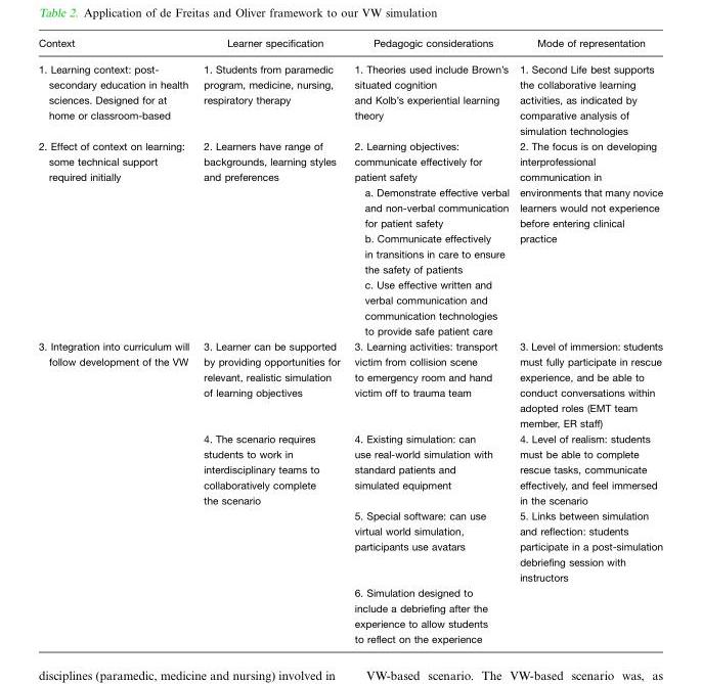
<table><thead><tr><td>Context</td><td>Learner specification</td><td>Pedagogic considerations</td><td>Mode of representation</td></tr></thead><tbody><tr><td>1. Learning context: post- secondary education in health sciences. Designed for at home or classroom-based</td><td>1. Students from paramedic program, medicine, nursing, respiratory therapy</td><td>1. Theories used include Brown’s situated cognition and Kolb’s experiential learning theory</td><td>1. Second Life best supports the collaborative learning activities, as indicated by comparative analysis of simulation technologies</td></tr><tr><td>2. Effect of context on learning: some technical support required initially</td><td>2. Learners have range of backgrounds, learning styles and preferences</td><td>2. Learning objectives: communicate effectively for patient safety a. Demonstrate effective verbal and non-verbal communication for patient safety b. Communicate effectively in transitions in care to ensure the safety of patients c. Use effective written and verbal communication and communication technologies to provide safe patient care</td><td>2. The focus is on developing interprofessional communication in environments that many novice learners would not experience before entering clinical practice</td></tr><tr><td rowspan="4">3. Integration into curriculum will follow development of the VW</td><td>3. Learner can be supported by providing opportunities for relevant, realistic simulation of learning objectives</td><td>3. Learning activities: transport victim from collision scene to emergency room and hand victim off to trauma team</td><td>3. Level of immersion: students must fully participate in rescue experience, and be able to conduct conversations within adopted roles (EMT team member, ER staff)</td></tr><tr><td>4. The scenario requires students to work in interdisciplinary teams to collaboratively complete the scenario</td><td>4. Existing simulation: can use real-world simulation with standard patients and simulated equipment</td><td>4. Level of realism: students must be able to complete rescue tasks, communicate effectively, and feel immersed in the scenario</td></tr><tr><td></td><td>5. Special software: can use virtual world simulation, participants use avatars</td><td>5. Links between simulation and reflection: students participate in a post-simulation debriefing session with instructors</td></tr><tr><td></td><td>6. Simulation designed to include a debriefing after the experience to allow students to reflect on the experience</td><td></td></tr></tbody></table>